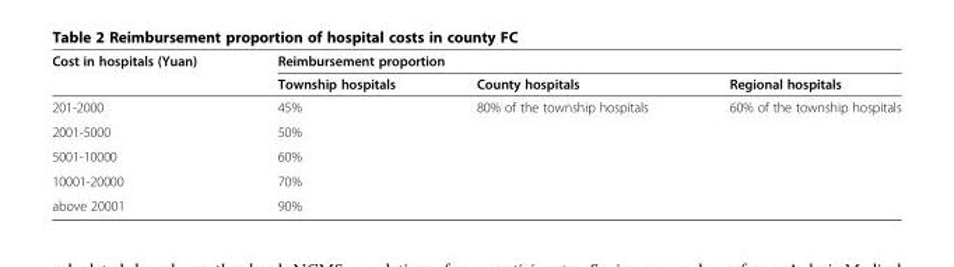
<table><thead><tr><td rowspan="2">Cost in hospitals (Yuan)</td><td colspan="3">Reimbursement proportion</td></tr><tr><td>Township hospitals</td><td>County hospitals</td><td>Regional hospitals</td></tr></thead><tbody><tr><td>201-2000</td><td>45%</td><td>80% of the township hospitals</td><td>60% of the township hospitals</td></tr><tr><td>2001-5000</td><td>50%</td><td></td><td></td></tr><tr><td>5001-10000</td><td>60%</td><td></td><td></td></tr><tr><td>10001-20000</td><td>70%</td><td></td><td></td></tr><tr><td>above 20001</td><td>90%</td><td></td><td></td></tr></tbody></table>